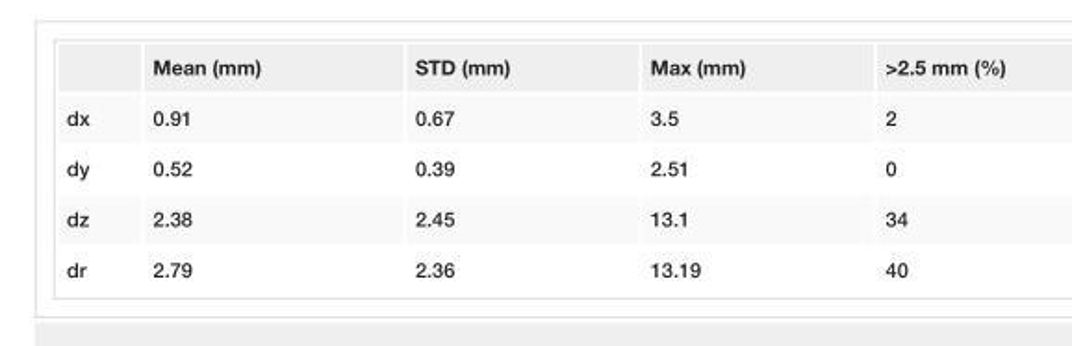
<table><thead><tr><td></td><td>Mean (mm)</td><td>STD (mm)</td><td>Max (mm)</td><td>&gt;2.5 mm (%)</td></tr></thead><tbody><tr><td>dx</td><td>0.91</td><td>0.67</td><td>3.5</td><td>2</td></tr><tr><td>dy</td><td>0.52</td><td>0.39</td><td>2.51</td><td>0</td></tr><tr><td>dz</td><td>2.38</td><td>2.45</td><td>13.1</td><td>34</td></tr><tr><td>dr</td><td>2.79</td><td>2.36</td><td>13.19</td><td>40</td></tr></tbody></table>